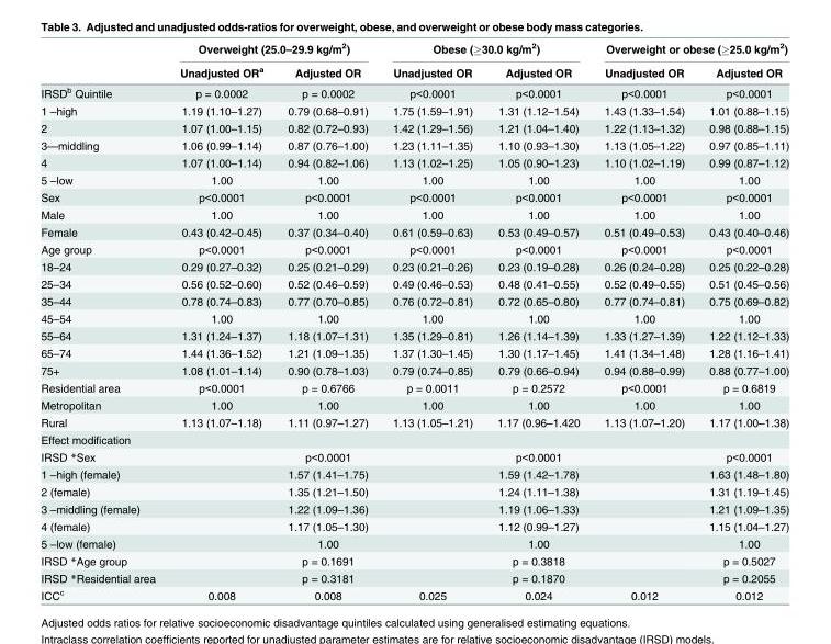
<table><thead><tr><td rowspan="2"></td><td colspan="2">Overweight (25.0–29.9 kg/m<sup>2</sup>)</td><td colspan="2">Obese (≥30.0 kg/m<sup>2</sup>)</td><td colspan="2">Overweight or obese (≥25.0 kg/m<sup>2</sup>)</td></tr><tr><td>Unadjusted OR<sup>a</sup></td><td>Adjusted OR</td><td>Unadjusted OR</td><td>Adjusted OR</td><td>Unadjusted OR</td><td>Adjusted OR</td></tr></thead><tbody><tr><td>IRSD<sup>b</sup> Quintile</td><td>p = 0.0002</td><td>p = 0.0002</td><td>p&lt;0.0001</td><td>p&lt;0.0001</td><td>p&lt;0.0001</td><td>p&lt;0.0001</td></tr><tr><td>1 –high</td><td>1.19 (1.10–1.27)</td><td>0.79 (0.68–0.91)</td><td>1.75 (1.59–1.91)</td><td>1.31 (1.12–1.54)</td><td>1.43 (1.33–1.54)</td><td>1.01 (0.88–1.15)</td></tr><tr><td>2</td><td>1.07 (1.00–1.15)</td><td>0.82 (0.72–0.93)</td><td>1.42 (1.29–1.56)</td><td>1.21 (1.04–1.40)</td><td>1.22 (1.13–1.32)</td><td>0.98 (0.88–1.15)</td></tr><tr><td>3—middling</td><td>1.06 (0.99–1.14)</td><td>0.87 (0.76–1.00)</td><td>1.23 (1.11–1.35)</td><td>1.10 (0.93–1.30)</td><td>1.13 (1.05–1.22)</td><td>0.97 (0.85–1.11)</td></tr><tr><td>4</td><td>1.07 (1.00–1.14)</td><td>0.94 (0.82–1.06)</td><td>1.13 (1.02–1.25)</td><td>1.05 (0.90–1.23)</td><td>1.10 (1.02–1.19)</td><td>0.99 (0.87–1.12)</td></tr><tr><td>5 –low</td><td>1.00</td><td>1.00</td><td>1.00</td><td>1.00</td><td>1.00</td><td>1.00</td></tr><tr><td>Sex</td><td>p&lt;0.0001</td><td>p&lt;0.0001</td><td>p&lt;0.0001</td><td>p&lt;0.0001</td><td>p&lt;0.0001</td><td>p&lt;0.0001</td></tr><tr><td>Male</td><td>1.00</td><td>1.00</td><td>1.00</td><td>1.00</td><td>1.00</td><td>1.00</td></tr><tr><td>Female</td><td>0.43 (0.42–0.45)</td><td>0.37 (0.34–0.40)</td><td>0.61 (0.59–0.63)</td><td>0.53 (0.49–0.57)</td><td>0.51 (0.49–0.53)</td><td>0.43 (0.40–0.46)</td></tr><tr><td>Age group</td><td>p&lt;0.0001</td><td>p&lt;0.0001</td><td>p&lt;0.0001</td><td>p&lt;0.0001</td><td>p&lt;0.0001</td><td>p&lt;0.0001</td></tr><tr><td>18–24</td><td>0.29 (0.27–0.32)</td><td>0.25 (0.21–0.29)</td><td>0.23 (0.21–0.26)</td><td>0.23 (0.19–0.28)</td><td>0.26 (0.24–0.28)</td><td>0.25 (0.22–0.28)</td></tr><tr><td>25–34</td><td>0.56 (0.52–0.60)</td><td>0.52 (0.46–0.59)</td><td>0.49 (0.46–0.53)</td><td>0.48 (0.41–0.55)</td><td>0.52 (0.49–0.55)</td><td>0.51 (0.45–0.56)</td></tr><tr><td>35–44</td><td>0.78 (0.74–0.83)</td><td>0.77 (0.70–0.85)</td><td>0.76 (0.72–0.81)</td><td>0.72 (0.65–0.80)</td><td>0.77 (0.74–0.81)</td><td>0.75 (0.69–0.82)</td></tr><tr><td>45–54</td><td>1.00</td><td>1.00</td><td>1.00</td><td>1.00</td><td>1.00</td><td>1.00</td></tr><tr><td>55–64</td><td>1.31 (1.24–1.37)</td><td>1.18 (1.07–1.31)</td><td>1.35 (1.29–0.81)</td><td>1.26 (1.14–1.39)</td><td>1.33 (1.27–1.39)</td><td>1.22 (1.12–1.33)</td></tr><tr><td>65–74</td><td>1.44 (1.36–1.52)</td><td>1.21 (1.09–1.35)</td><td>1.37 (1.30–1.45)</td><td>1.30 (1.17–1.45)</td><td>1.41 (1.34–1.48)</td><td>1.28 (1.16–1.41)</td></tr><tr><td>75+</td><td>1.08 (1.01–1.14)</td><td>0.90 (0.78–1.03)</td><td>0.79 (0.74–0.85)</td><td>0.79 (0.66–0.94)</td><td>0.94 (0.88–0.99)</td><td>0.88 (0.77–1.00)</td></tr><tr><td>Residential area</td><td>p&lt;0.0001</td><td>p = 0.6766</td><td>p = 0.0011</td><td>p = 0.2572</td><td>p&lt;0.0001</td><td>p = 0.6819</td></tr><tr><td>Metropolitan</td><td>1.00</td><td>1.00</td><td>1.00</td><td>1.00</td><td>1.00</td><td>1.00</td></tr><tr><td>Rural</td><td>1.13 (1.07–1.18)</td><td>1.11 (0.97–1.27)</td><td>1.13 (1.05–1.21)</td><td>1.17 (0.96–1.420</td><td>1.13 (1.07–1.20)</td><td>1.17 (1.00–1.38)</td></tr><tr><td colspan="7">Effect modification</td></tr><tr><td>IRSD *Sex</td><td></td><td>p&lt;0.0001</td><td></td><td>p&lt;0.0001</td><td></td><td>p&lt;0.0001</td></tr><tr><td>1 –high (female)</td><td></td><td>1.57 (1.41–1.75)</td><td></td><td>1.59 (1.42–1.78)</td><td></td><td>1.63 (1.48–1.80)</td></tr><tr><td>2 (female)</td><td></td><td>1.35 (1.21–1.50)</td><td></td><td>1.24 (1.11–1.38)</td><td></td><td>1.31 (1.19–1.45)</td></tr><tr><td>3 –middling (female)</td><td></td><td>1.22 (1.09–1.36)</td><td></td><td>1.19 (1.06–1.33)</td><td></td><td>1.21 (1.09–1.35)</td></tr><tr><td>4 (female)</td><td></td><td>1.17 (1.05–1.30)</td><td></td><td>1.12 (0.99–1.27)</td><td></td><td>1.15 (1.04–1.27)</td></tr><tr><td>5 –low (female)</td><td></td><td>1.00</td><td></td><td>1.00</td><td></td><td>1.00</td></tr><tr><td>IRSD *Age group</td><td></td><td>p = 0.1691</td><td></td><td>p = 0.3818</td><td></td><td>p = 0.5027</td></tr><tr><td>IRSD *Residential area</td><td></td><td>p = 0.3181</td><td></td><td>p = 0.1870</td><td></td><td>p = 0.2055</td></tr><tr><td>ICC<sup>c</sup></td><td>0.008</td><td>0.008</td><td>0.025</td><td>0.024</td><td>0.012</td><td>0.012</td></tr></tbody></table>